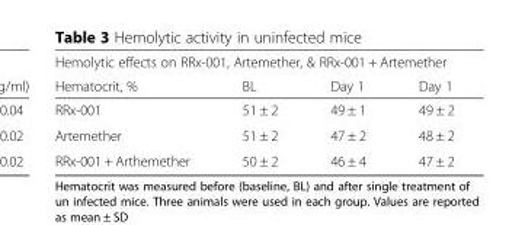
<table><thead><tr><td colspan="4">Hemolytic effects on RRx-001, Artemether, &amp; RRx-001 + Artemether</td></tr><tr><td>Hematocrit, %</td><td>BL</td><td>Day 1</td><td>Day 1</td></tr></thead><tbody><tr><td>RRx-001</td><td>51 ± 2</td><td>49 ± 1</td><td>49 ± 2</td></tr><tr><td>Artemether</td><td>51 ± 2</td><td>47 ± 2</td><td>48 ± 2</td></tr><tr><td>RRx-001 + Arthemether</td><td>50 ± 2</td><td>46 ± 4</td><td>47 ± 2</td></tr></tbody></table>